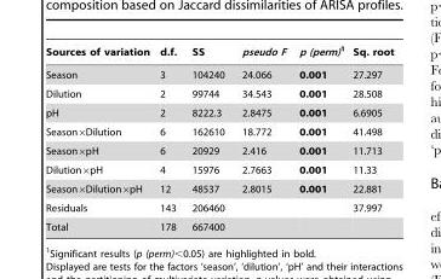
<table><thead><tr><td>Sources of variation</td><td>d.f.</td><td>SS</td><td>pseudo F</td><td>p (perm)1</td><td>Sq. root</td></tr></thead><tbody><tr><td>Season</td><td>3</td><td>104240</td><td>24.066</td><td>0.001</td><td>27.297</td></tr><tr><td>Dilution</td><td>2</td><td>99744</td><td>34.543</td><td>0.001</td><td>28.508</td></tr><tr><td>pH</td><td>2</td><td>8222.3</td><td>2.8475</td><td>0.001</td><td>6.6905</td></tr><tr><td>Season×Dilution</td><td>6</td><td>162610</td><td>18.772</td><td>0.001</td><td>41.498</td></tr><tr><td>Season×pH</td><td>6</td><td>20929</td><td>2.416</td><td>0.001</td><td>11.713</td></tr><tr><td>Dilution×pH</td><td>4</td><td>15976</td><td>2.7663</td><td>0.001</td><td>11.33</td></tr><tr><td>Season×Dilution×pH</td><td>12</td><td>48537</td><td>2.8015</td><td>0.001</td><td>22.881</td></tr><tr><td>Residuals</td><td>143</td><td>206460</td><td></td><td></td><td>37.997</td></tr><tr><td>Total</td><td>178</td><td>667400</td><td></td><td></td><td></td></tr></tbody></table>